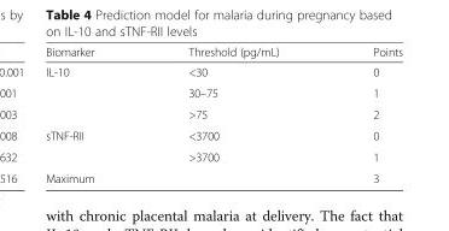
<table><thead><tr><td>Biomarker</td><td>Threshold (pg/mL)</td><td>Points</td></tr></thead><tbody><tr><td rowspan="3">IL-10</td><td>&lt;30</td><td>0</td></tr><tr><td>30–75</td><td>1</td></tr><tr><td>&gt;75</td><td>2</td></tr><tr><td rowspan="2">sTNF-RII</td><td>&lt;3700</td><td>0</td></tr><tr><td>&gt;3700</td><td>1</td></tr><tr><td>Maximum</td><td></td><td>3</td></tr></tbody></table>